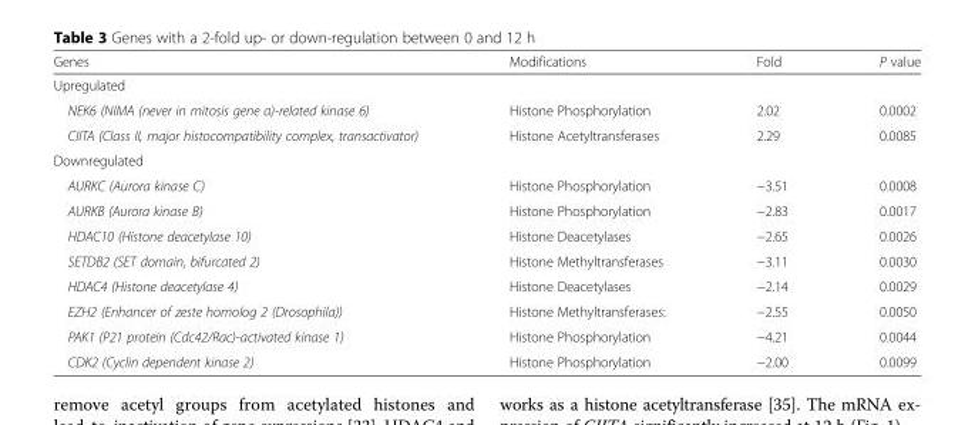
<table><thead><tr><td>Genes</td><td>Modifications</td><td>Fold</td><td>P value</td></tr></thead><tbody><tr><td colspan="4">Upregulated</td></tr><tr><td>NEK6 (NIMA (never in mitosis gene a)-related kinase 6)</td><td>Histone Phosphorylation</td><td>2.02</td><td>0.0002</td></tr><tr><td>CIITA (Class II, major histocompatibility complex, transactivator)</td><td>Histone Acetyltransferases</td><td>2.29</td><td>0.0085</td></tr><tr><td colspan="4">Downregulated</td></tr><tr><td>AURKC (Aurora kinase C)</td><td>Histone Phosphorylation</td><td>−3.51</td><td>0.0008</td></tr><tr><td>AURKB (Aurora kinase B)</td><td>Histone Phosphorylation</td><td>−2.83</td><td>0.0017</td></tr><tr><td>HDAC10 (Histone deacetylase 10)</td><td>Histone Deacetylases</td><td>−2.65</td><td>0.0026</td></tr><tr><td>SETDB2 (SET domain, bifurcated 2)</td><td>Histone Methyltransferases</td><td>−3.11</td><td>0.0030</td></tr><tr><td>HDAC4 (Histone deacetylase 4)</td><td>Histone Deacetylases</td><td>−2.14</td><td>0.0029</td></tr><tr><td>EZH2 (Enhancer of zeste homolog 2 (Drosophila))</td><td>Histone Methyltransferases:</td><td>−2.55</td><td>0.0050</td></tr><tr><td>PAK1 (P21 protein (Cdc42/Rac)-activated kinase 1)</td><td>Histone Phosphorylation</td><td>−4.21</td><td>0.0044</td></tr><tr><td>CDK2 (Cyclin dependent kinase 2)</td><td>Histone Phosphorylation</td><td>−2.00</td><td>0.0099</td></tr></tbody></table>